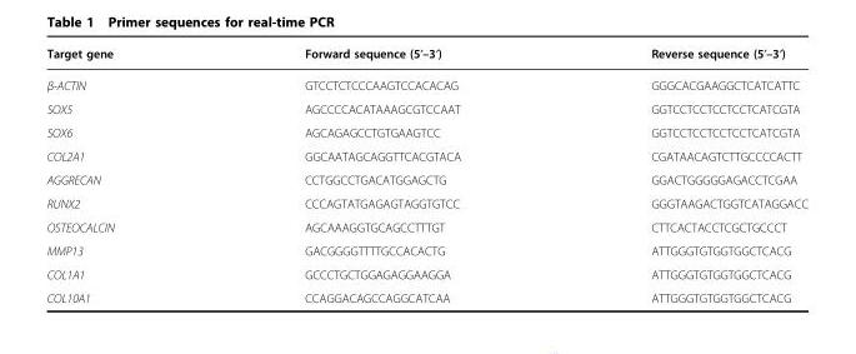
<table><thead><tr><td>Target gene</td><td>Forward sequence (5ʹ–3ʹ)</td><td>Reverse sequence (5ʹ–3ʹ)</td></tr></thead><tbody><tr><td>β-ACTIN</td><td>GTCCTCTCCCAAGTCCACACAG</td><td>GGGCACGAAGGCTCATCATTC</td></tr><tr><td>SOX5</td><td>AGCCCCACATAAAGCGTCCAAT</td><td>GGTCCTCCTCCTCCTCATCGTA</td></tr><tr><td>SOX6</td><td>AGCAGAGCCTGTGAAGTCC</td><td>GGTCCTCCTCCTCCTCATCGTA</td></tr><tr><td>COL2A1</td><td>GGCAATAGCAGGTTCACGTACA</td><td>CGATAACAGTCTTGCCCCACTT</td></tr><tr><td>AGGRECAN</td><td>CCTGGCCTGACATGGAGCTG</td><td>GGACTGGGGGAGACCTCGAA</td></tr><tr><td>RUNX2</td><td>CCCAGTATGAGAGTAGGTGTCC</td><td>GGGTAAGACTGGTCATAGGACC</td></tr><tr><td>OSTEOCALCIN</td><td>AGCAAAGGTGCAGCCTTTGT</td><td>CTTCACTACCTCGCTGCCCT</td></tr><tr><td>MMP13</td><td>GACGGGGTTTTGCCACACTG</td><td>ATTGGGTGTGGTGGCTCACG</td></tr><tr><td>COL1A1</td><td>GCCCTGCTGGAGAGGAAGGA</td><td>ATTGGGTGTGGTGGCTCACG</td></tr><tr><td>COL10A1</td><td>CCAGGACAGCCAGGCATCAA</td><td>ATTGGGTGTGGTGGCTCACG</td></tr></tbody></table>